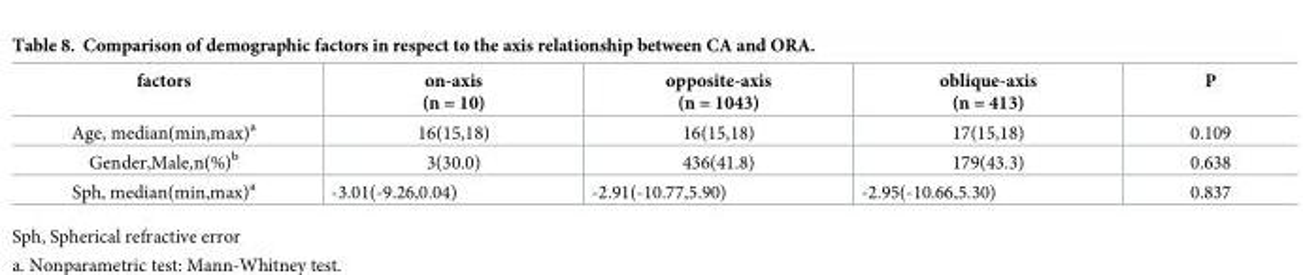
<table><thead><tr><td>factors</td><td>on-axis (n = 10)</td><td>opposite-axis (n = 1043)</td><td>oblique-axis (n = 413)</td><td>P</td></tr></thead><tbody><tr><td>Age, median(min,max)<sup>a</sup></td><td>16(15,18)</td><td>16(15,18)</td><td>17(15,18)</td><td>0.109</td></tr><tr><td>Gender,Male,n(%)<sup>b</sup></td><td>3(30.0)</td><td>436(41.8)</td><td>179(43.3)</td><td>0.638</td></tr><tr><td>Sph, median(min,max)<sup>a</sup></td><td>-3.01(-9.26,0.04)</td><td>-2.91(-10.77,5.90)</td><td>-2.95(-10.66,5.30)</td><td>0.837</td></tr></tbody></table>